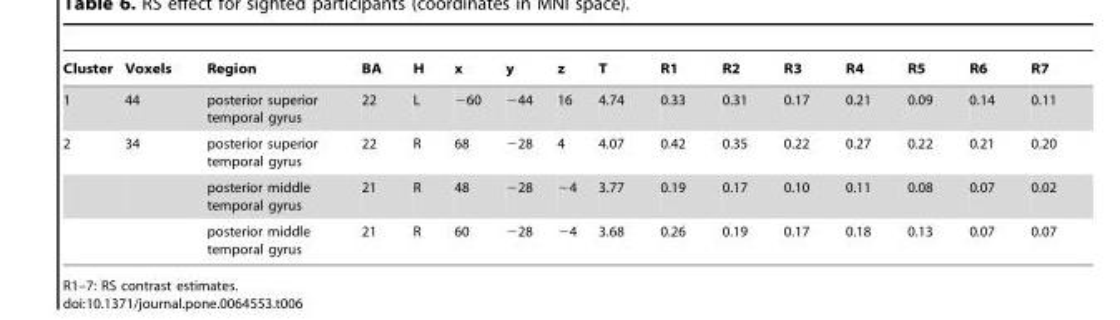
<table><thead><tr><td>Cluster</td><td>Voxels</td><td>Region</td><td>BA</td><td>H</td><td>x</td><td>y</td><td>z</td><td>T</td><td>R1</td><td>R2</td><td>R3</td><td>R4</td><td>R5</td><td>R6</td><td>R7</td></tr></thead><tbody><tr><td>1</td><td>44</td><td>posterior superior temporal gyrus</td><td>22</td><td>L</td><td>−60</td><td>−44</td><td>16</td><td>4.74</td><td>0.33</td><td>0.31</td><td>0.17</td><td>0.21</td><td>0.09</td><td>0.14</td><td>0.11</td></tr><tr><td rowspan="3">2</td><td>34</td><td>posterior superior temporal gyrus</td><td>22</td><td>R</td><td>68</td><td>−28</td><td>4</td><td>4.07</td><td>0.42</td><td>0.35</td><td>0.22</td><td>0.27</td><td>0.22</td><td>0.21</td><td>0.20</td></tr><tr><td></td><td>posterior middle temporal gyrus</td><td>21</td><td>R</td><td>48</td><td>−28</td><td>−4</td><td>3.77</td><td>0.19</td><td>0.17</td><td>0.10</td><td>0.11</td><td>0.08</td><td>0.07</td><td>0.02</td></tr><tr><td></td><td>posterior middle temporal gyrus</td><td>21</td><td>R</td><td>60</td><td>−28</td><td>−4</td><td>3.68</td><td>0.26</td><td>0.19</td><td>0.17</td><td>0.18</td><td>0.13</td><td>0.07</td><td>0.07</td></tr></tbody></table>